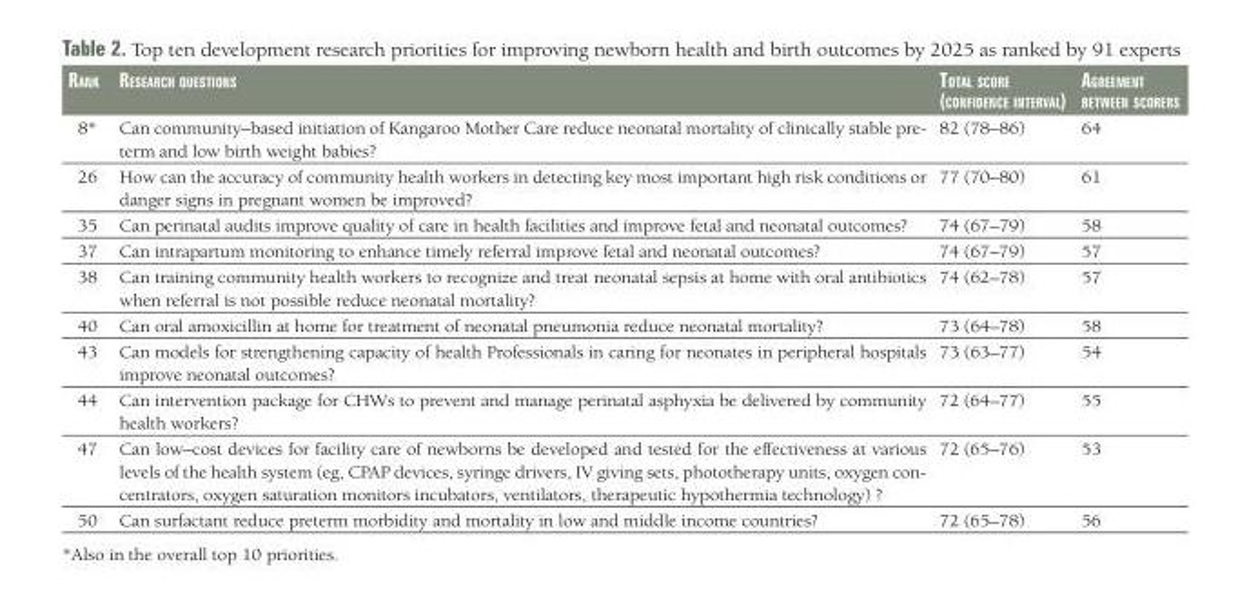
<table><thead><tr><td>Rank</td><td>ReseaRch questions</td><td>total scoRe (confiDence inteRval)</td><td>agReement between scoReRs</td></tr></thead><tbody><tr><td>8*</td><td>Can community–based initiation of Kangaroo Mother Care reduce neonatal mortality of clinically stable pre- term and low birth weight babies?</td><td>82 (78–86)</td><td>64</td></tr><tr><td>26</td><td>How can the accuracy of community health workers in detecting key most important high risk conditions or danger signs in pregnant women be improved?</td><td>77 (70–80)</td><td>61</td></tr><tr><td>35</td><td>Can perinatal audits improve quality of care in health facilities and improve fetal and neonatal outcomes?</td><td>74 (67–79)</td><td>58</td></tr><tr><td>37</td><td>Can intrapartum monitoring to enhance timely referral improve fetal and neonatal outcomes?</td><td>74 (67–79)</td><td>57</td></tr><tr><td>38</td><td>Can training community health workers to recognize and treat neonatal sepsis at home with oral antibiotics when referral is not possible reduce neonatal mortality?</td><td>74 (62–78)</td><td>57</td></tr><tr><td>40</td><td>Can oral amoxicillin at home for treatment of neonatal pneumonia reduce neonatal mortality?</td><td>73 (64–78)</td><td>58</td></tr><tr><td>43</td><td>Can models for strengthening capacity of health Professionals in caring for neonates in peripheral hospitals improve neonatal outcomes?</td><td>73 (63–77)</td><td>54</td></tr><tr><td>44</td><td>Can intervention package for CHWs to prevent and manage perinatal asphyxia be delivered by community health workers?</td><td>72 (64–77)</td><td>55</td></tr><tr><td>47</td><td>Can low–cost devices for facility care of newborns be developed and tested for the effectiveness at various levels of the health system (eg, CPAP devices, syringe drivers, IV giving sets, phototherapy units, oxygen con- centrators, oxygen saturation monitors incubators, ventilators, therapeutic hypothermia technology) ?</td><td>72 (65–76)</td><td>53</td></tr><tr><td>50</td><td>Can surfactant reduce preterm morbidity and mortality in low and middle income countries?</td><td>72 (65–78)</td><td>56</td></tr></tbody></table>